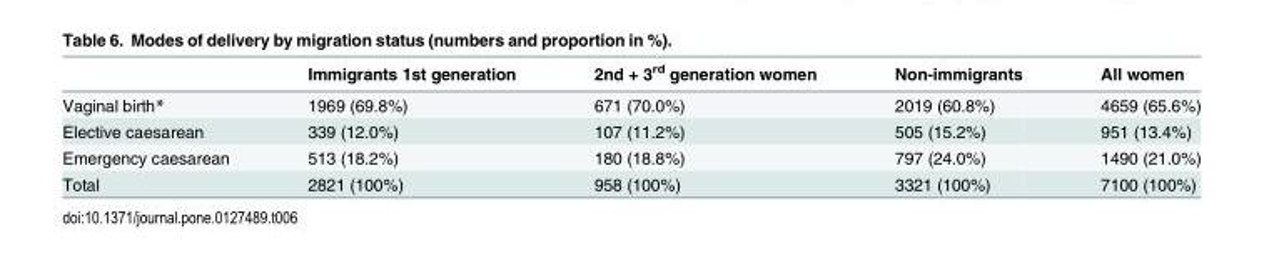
<table><thead><tr><td></td><td>Immigrants 1st generation</td><td>2nd + 3<sup>rd</sup> generation women</td><td>Non-immigrants</td><td>All women</td></tr></thead><tbody><tr><td>Vaginal birth*</td><td>1969 (69.8%)</td><td>671 (70.0%)</td><td>2019 (60.8%)</td><td>4659 (65.6%)</td></tr><tr><td>Elective caesarean</td><td>339 (12.0%)</td><td>107 (11.2%)</td><td>505 (15.2%)</td><td>951 (13.4%)</td></tr><tr><td>Emergency caesarean</td><td>513 (18.2%)</td><td>180 (18.8%)</td><td>797 (24.0%)</td><td>1490 (21.0%)</td></tr><tr><td>Total</td><td>2821 (100%)</td><td>958 (100%)</td><td>3321 (100%)</td><td>7100 (100%)</td></tr></tbody></table>